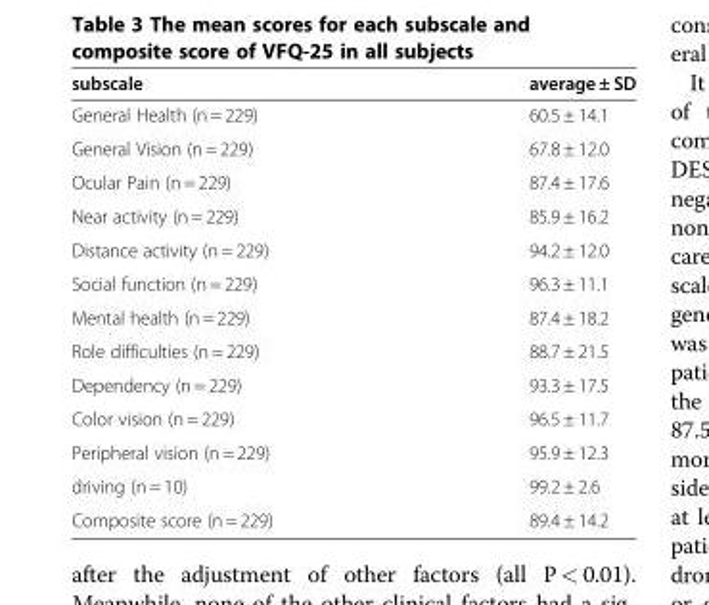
<table><thead><tr><td>subscale</td><td>average ± SD</td></tr></thead><tbody><tr><td>General Health (n = 229)</td><td>60.5 ± 14.1</td></tr><tr><td>General Vision (n = 229)</td><td>67.8 ± 12.0</td></tr><tr><td>Ocular Pain (n = 229)</td><td>87.4 ± 17.6</td></tr><tr><td>Near activity (n = 229)</td><td>85.9 ± 16.2</td></tr><tr><td>Distance activity (n = 229)</td><td>94.2 ± 12.0</td></tr><tr><td>Social function (n = 229)</td><td>96.3 ± 11.1</td></tr><tr><td>Mental health (n = 229)</td><td>87.4 ± 18.2</td></tr><tr><td>Role difficulties (n = 229)</td><td>88.7 ± 21.5</td></tr><tr><td>Dependency (n = 229)</td><td>93.3 ± 17.5</td></tr><tr><td>Color vision (n = 229)</td><td>96.5 ± 11.7</td></tr><tr><td>Peripheral vision (n = 229)</td><td>95.9 ± 12.3</td></tr><tr><td>driving (n = 10)</td><td>99.2 ± 2.6</td></tr><tr><td>Composite score (n = 229)</td><td>89.4 ± 14.2</td></tr></tbody></table>